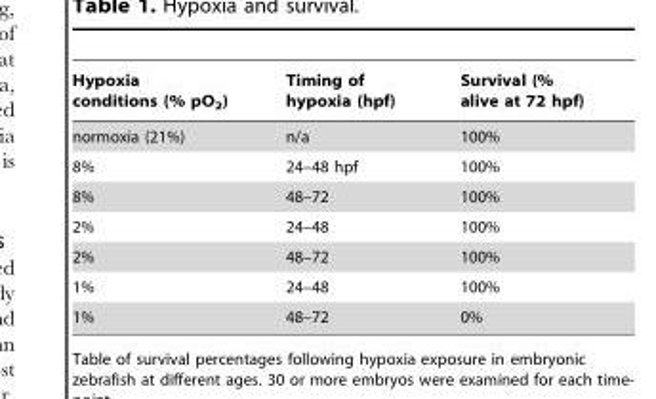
<table><thead><tr><td>Hypoxia conditions (% pO<sub>2</sub>)</td><td>Timing of hypoxia (hpf)</td><td>Survival (% alive at 72 hpf)</td></tr></thead><tbody><tr><td>normoxia (21%)</td><td>n/a</td><td>100%</td></tr><tr><td>8%</td><td>24–48 hpf</td><td>100%</td></tr><tr><td>8%</td><td>48–72</td><td>100%</td></tr><tr><td>2%</td><td>24–48</td><td>100%</td></tr><tr><td>2%</td><td>48–72</td><td>100%</td></tr><tr><td>1%</td><td>24–48</td><td>100%</td></tr><tr><td>1%</td><td>48–72</td><td>0%</td></tr></tbody></table>